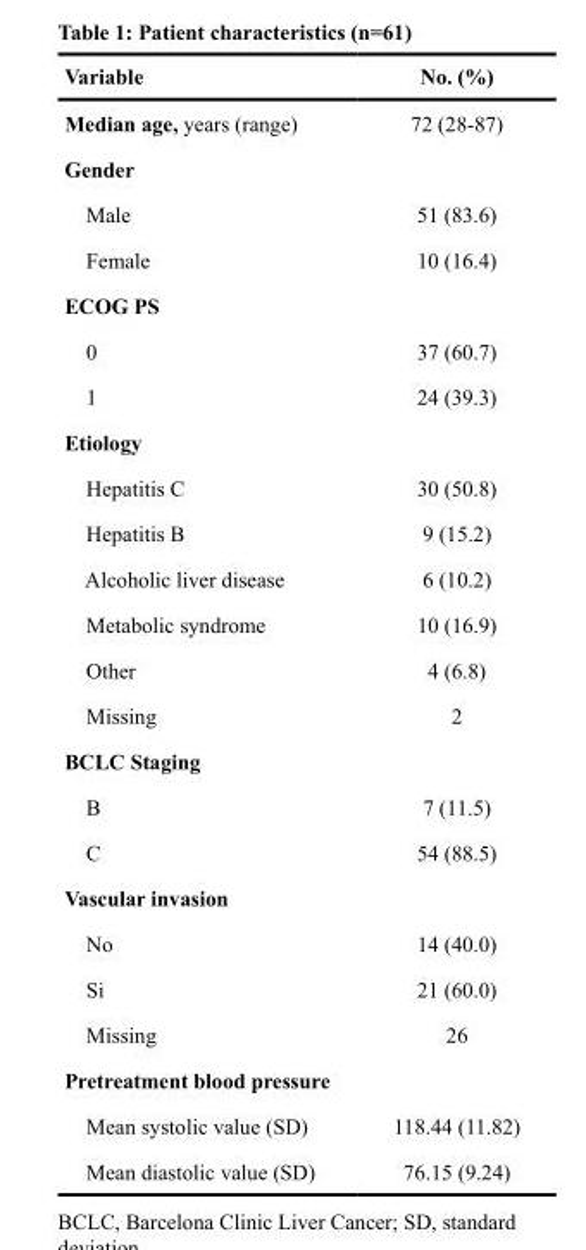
<table><thead><tr><td>Variable</td><td>No. (%)</td></tr></thead><tbody><tr><td>Median age, years (range)</td><td>72 (28-87)</td></tr><tr><td colspan="2">Gender</td></tr><tr><td>Male</td><td>51 (83.6)</td></tr><tr><td>Female</td><td>10 (16.4)</td></tr><tr><td colspan="2">ECOG PS</td></tr><tr><td>0</td><td>37 (60.7)</td></tr><tr><td>1</td><td>24 (39.3)</td></tr><tr><td colspan="2">Etiology</td></tr><tr><td>Hepatitis C</td><td>30 (50.8)</td></tr><tr><td>Hepatitis B</td><td>9 (15.2)</td></tr><tr><td>Alcoholic liver disease</td><td>6 (10.2)</td></tr><tr><td>Metabolic syndrome</td><td>10 (16.9)</td></tr><tr><td>Other</td><td>4 (6.8)</td></tr><tr><td>Missing</td><td>2</td></tr><tr><td colspan="2">BCLC Staging</td></tr><tr><td>B</td><td>7 (11.5)</td></tr><tr><td>C</td><td>54 (88.5)</td></tr><tr><td colspan="2">Vascular invasion</td></tr><tr><td>No</td><td>14 (40.0)</td></tr><tr><td>Si</td><td>21 (60.0)</td></tr><tr><td>Missing</td><td>26</td></tr><tr><td colspan="2">Pretreatment blood pressure</td></tr><tr><td>Mean systolic value (SD)</td><td>118.44 (11.82)</td></tr><tr><td>Mean diastolic value (SD)</td><td>76.15 (9.24)</td></tr></tbody></table>